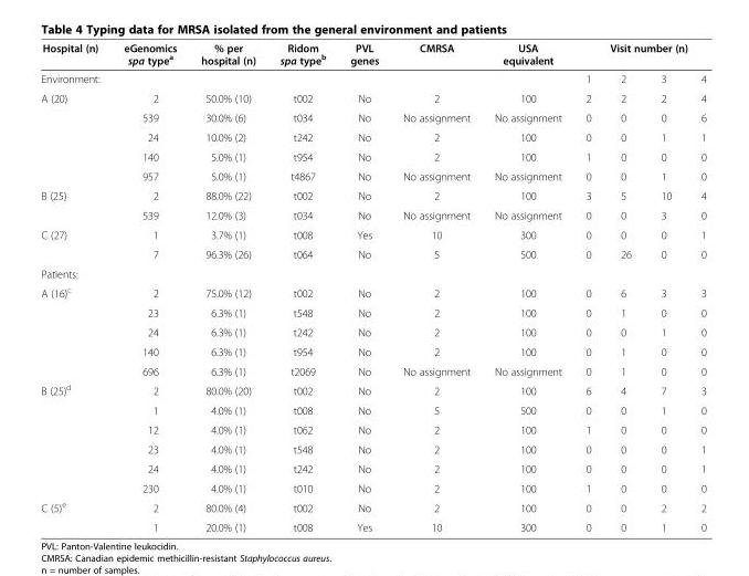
<table><thead><tr><td rowspan="2">Hospital (n) Environment:</td><td rowspan="2">eGenomics spa type<sup>a</sup></td><td rowspan="2">% per hospital (n)</td><td rowspan="2">Ridom spa type<sup>b</sup></td><td rowspan="2">PVL genes</td><td rowspan="2">CMRSA</td><td rowspan="2">USA equivalent</td><td colspan="4">Visit number (n)</td></tr><tr><td>1</td><td>2</td><td>3</td><td>4</td></tr></thead><tbody><tr><td rowspan="5">A (20)</td><td>2</td><td>50.0% (10)</td><td>t002</td><td>No</td><td>2</td><td>100</td><td>2</td><td>2</td><td>2</td><td>4</td></tr><tr><td>539</td><td>30.0% (6)</td><td>t034</td><td>No</td><td>No assignment</td><td>No assignment</td><td>0</td><td>0</td><td>0</td><td>6</td></tr><tr><td>24</td><td>10.0% (2)</td><td>t242</td><td>No</td><td>2</td><td>100</td><td>0</td><td>0</td><td>1</td><td>1</td></tr><tr><td>140</td><td>5.0% (1)</td><td>t954</td><td>No</td><td>2</td><td>100</td><td>1</td><td>0</td><td>0</td><td>0</td></tr><tr><td>957</td><td>5.0% (1)</td><td>t4867</td><td>No</td><td>No assignment</td><td>No assignment</td><td>0</td><td>0</td><td>1</td><td>0</td></tr><tr><td rowspan="2">B (25)</td><td>2</td><td>88.0% (22)</td><td>t002</td><td>No</td><td>2</td><td>100</td><td>3</td><td>5</td><td>10</td><td>4</td></tr><tr><td>539</td><td>12.0% (3)</td><td>t034</td><td>No</td><td>No assignment</td><td>No assignment</td><td>0</td><td>0</td><td>3</td><td>0</td></tr><tr><td rowspan="2">C (27)</td><td>1</td><td>3.7% (1)</td><td>t008</td><td>Yes</td><td>10</td><td>300</td><td>0</td><td>0</td><td>0</td><td>1</td></tr><tr><td>7</td><td>96.3% (26)</td><td>t064</td><td>No</td><td>5</td><td>500</td><td>0</td><td>26</td><td>0</td><td>0</td></tr><tr><td colspan="11">Patients:</td></tr><tr><td rowspan="5">A (16)<sup>c</sup></td><td>2</td><td>75.0% (12)</td><td>t002</td><td>No</td><td>2</td><td>100</td><td>0</td><td>6</td><td>3</td><td>3</td></tr><tr><td>23</td><td>6.3% (1)</td><td>t548</td><td>No</td><td>2</td><td>100</td><td>0</td><td>1</td><td>0</td><td>0</td></tr><tr><td>24</td><td>6.3% (1)</td><td>t242</td><td>No</td><td>2</td><td>100</td><td>0</td><td>0</td><td>1</td><td>0</td></tr><tr><td>140</td><td>6.3% (1)</td><td>t954</td><td>No</td><td>2</td><td>100</td><td>0</td><td>1</td><td>0</td><td>0</td></tr><tr><td>696</td><td>6.3% (1)</td><td>t2069</td><td>No</td><td>No assignment</td><td>No assignment</td><td>0</td><td>1</td><td>0</td><td>0</td></tr><tr><td rowspan="6">B (25)<sup>d</sup></td><td>2</td><td>80.0% (20)</td><td>t002</td><td>No</td><td>2</td><td>100</td><td>6</td><td>4</td><td>7</td><td>3</td></tr><tr><td>1</td><td>4.0% (1)</td><td>t008</td><td>No</td><td>5</td><td>500</td><td>0</td><td>0</td><td>1</td><td>0</td></tr><tr><td>12</td><td>4.0% (1)</td><td>t062</td><td>No</td><td>2</td><td>100</td><td>1</td><td>0</td><td>0</td><td>0</td></tr><tr><td>23</td><td>4.0% (1)</td><td>t548</td><td>No</td><td>2</td><td>100</td><td>0</td><td>0</td><td>0</td><td>1</td></tr><tr><td>24</td><td>4.0% (1)</td><td>t242</td><td>No</td><td>2</td><td>100</td><td>0</td><td>0</td><td>0</td><td>1</td></tr><tr><td>230</td><td>4.0% (1)</td><td>t010</td><td>No</td><td>2</td><td>100</td><td>1</td><td>0</td><td>0</td><td>0</td></tr><tr><td rowspan="2">C (5)<sup>e</sup></td><td>2</td><td>80.0% (4)</td><td>t002</td><td>No</td><td>2</td><td>100</td><td>0</td><td>0</td><td>2</td><td>2</td></tr><tr><td>1</td><td>20.0% (1)</td><td>t008</td><td>Yes</td><td>10</td><td>300</td><td>0</td><td>0</td><td>1</td><td>0</td></tr></tbody></table>